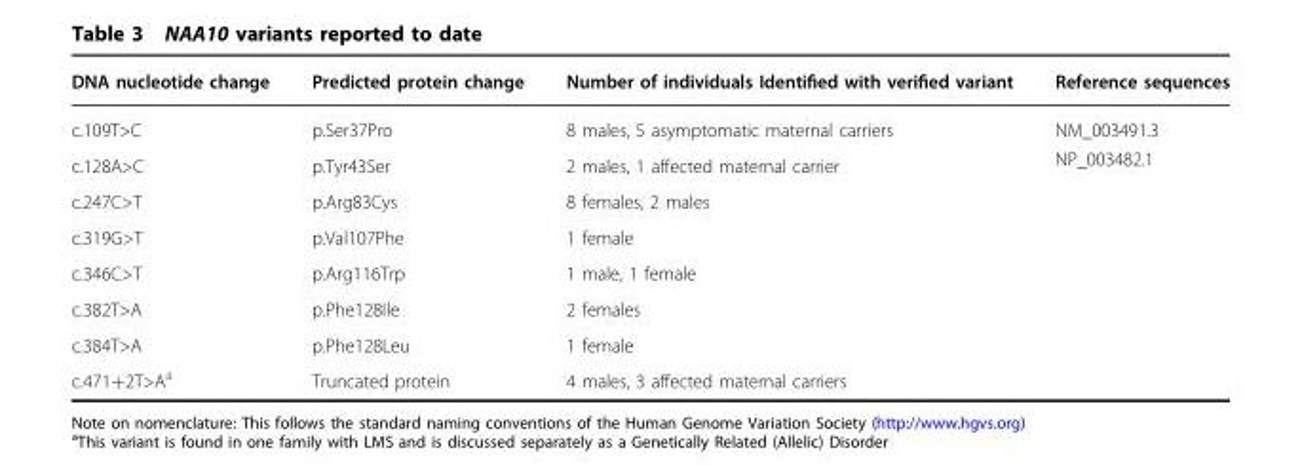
<table><thead><tr><td>DNA nucleotide change</td><td>Predicted protein change</td><td>Number of individuals Identified with verified variant</td><td>Reference sequences</td></tr></thead><tbody><tr><td>c.109T&gt;C</td><td>p.Ser37Pro</td><td>8 males, 5 asymptomatic maternal carriers</td><td rowspan="8">NM_003491.3 NP_003482.1</td></tr><tr><td>c.128A&gt;C</td><td>p.Tyr43Ser</td><td>2 males, 1 affected maternal carrier</td></tr><tr><td>c.247C&gt;T</td><td>p.Arg83Cys</td><td>8 females, 2 males</td></tr><tr><td>c.319G&gt;T</td><td>p.Val107Phe</td><td>1 female</td></tr><tr><td>c.346C&gt;T</td><td>p.Arg116Trp</td><td>1 male, 1 female</td></tr><tr><td>c.382T&gt;A</td><td>p.Phe128Ile</td><td>2 females</td></tr><tr><td>c.384T&gt;A</td><td>p.Phe128Leu</td><td>1 female</td></tr><tr><td>c.471+2T&gt;A<sup>a</sup></td><td>Truncated protein</td><td>4 males, 3 affected maternal carriers</td></tr></tbody></table>